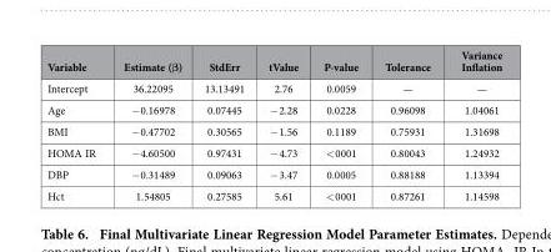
<table><thead><tr><td>Variable</td><td>Estimate (β)</td><td>StdErr</td><td>tValue</td><td>P-value</td><td>Tolerance</td><td>Variance Inflation</td></tr></thead><tbody><tr><td>Intercept</td><td>36.22095</td><td>13.13491</td><td>2.76</td><td>0.0059</td><td>—</td><td>—</td></tr><tr><td>Age</td><td>− 0.16978</td><td>0.07445</td><td>− 2.28</td><td>0.0228</td><td>0.96098</td><td>1.04061</td></tr><tr><td>BMI</td><td>− 0.47702</td><td>0.30565</td><td>− 1.56</td><td>0.1189</td><td>0.75931</td><td>1.31698</td></tr><tr><td>HOMA IR</td><td>− 4.60500</td><td>0.97431</td><td>− 4.73</td><td>&lt; 0001</td><td>0.80043</td><td>1.24932</td></tr><tr><td>DBP</td><td>− 0.31489</td><td>0.09063</td><td>− 3.47</td><td>0.0005</td><td>0.88188</td><td>1.13394</td></tr><tr><td>Hct</td><td>1.54805</td><td>0.27585</td><td>5.61</td><td>&lt; 0001</td><td>0.87261</td><td>1.14598</td></tr></tbody></table>